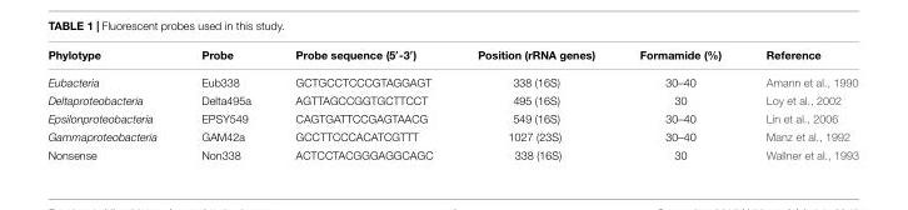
<table><thead><tr><td>Phylotype</td><td>Probe</td><td>Probe sequence (5′-3′)</td><td>Position (rRNA genes)</td><td>Formamide (%)</td><td>Reference</td></tr></thead><tbody><tr><td>Eubacteria</td><td>Eub338</td><td>GCTGCCTCCCGTAGGAGT</td><td>338 (16S)</td><td>30–40</td><td>Amann et al., 1990</td></tr><tr><td>Deltaproteobacteria</td><td>Delta495a</td><td>AGTTAGCCGGTGCTTCCT</td><td>495 (16S)</td><td>30</td><td>Loy et al., 2002</td></tr><tr><td>Epsilonproteobacteria</td><td>EPSY549</td><td>CAGTGATTCCGAGTAACG</td><td>549 (16S)</td><td>30–40</td><td>Lin et al., 2006</td></tr><tr><td>Gammaproteobacteria</td><td>GAM42a</td><td>GCCTTCCCACATCGTTT</td><td>1027 (23S)</td><td>30–40</td><td>Manz et al., 1992</td></tr><tr><td>Nonsense</td><td>Non338</td><td>ACTCCTACGGGAGGCAGC</td><td>338 (16S)</td><td>30</td><td>Wallner et al., 1993</td></tr></tbody></table>